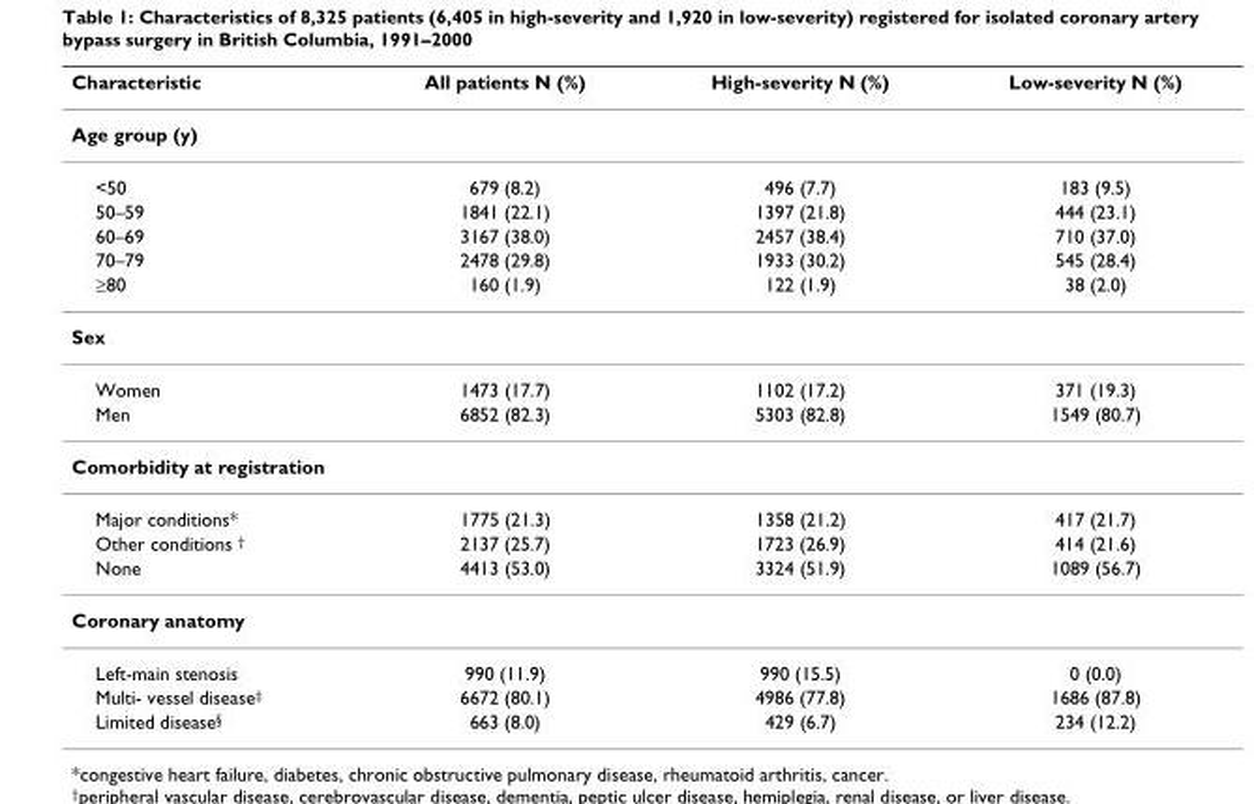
<table><thead><tr><td>Characteristic</td><td>All patients N (%)</td><td>High-severity N (%)</td><td>Low-severity N (%)</td></tr></thead><tbody><tr><td colspan="4">Age group (y)</td></tr><tr><td>&lt;50</td><td>679 (8.2)</td><td>496 (7.7)</td><td>183 (9.5)</td></tr><tr><td>50–59</td><td>1841 (22.1)</td><td>1397 (21.8)</td><td>444 (23.1)</td></tr><tr><td>60–69</td><td>3167 (38.0)</td><td>2457 (38.4)</td><td>710 (37.0)</td></tr><tr><td>70–79</td><td>2478 (29.8)</td><td>1933 (30.2)</td><td>545 (28.4)</td></tr><tr><td>≥80</td><td>160 (1.9)</td><td>122 (1.9)</td><td>38 (2.0)</td></tr><tr><td colspan="4">Sex</td></tr><tr><td>Women</td><td>1473 (17.7)</td><td>1102 (17.2)</td><td>371 (19.3)</td></tr><tr><td>Men</td><td>6852 (82.3)</td><td>5303 (82.8)</td><td>1549 (80.7)</td></tr><tr><td colspan="4">Comorbidity at registration</td></tr><tr><td>Major conditions*</td><td>1775 (21.3)</td><td>1358 (21.2)</td><td>417 (21.7)</td></tr><tr><td>Other conditions †</td><td>2137 (25.7)</td><td>1723 (26.9)</td><td>414 (21.6)</td></tr><tr><td>None</td><td>4413 (53.0)</td><td>3324 (51.9)</td><td>1089 (56.7)</td></tr><tr><td colspan="4">Coronary anatomy</td></tr><tr><td>Left-main stenosis</td><td>990 (11.9)</td><td>990 (15.5)</td><td>0 (0.0)</td></tr><tr><td>Multi- vessel disease‡</td><td>6672 (80.1)</td><td>4986 (77.8)</td><td>1686 (87.8)</td></tr><tr><td>Limited disease§</td><td>663 (8.0)</td><td>429 (6.7)</td><td>234 (12.2)</td></tr></tbody></table>